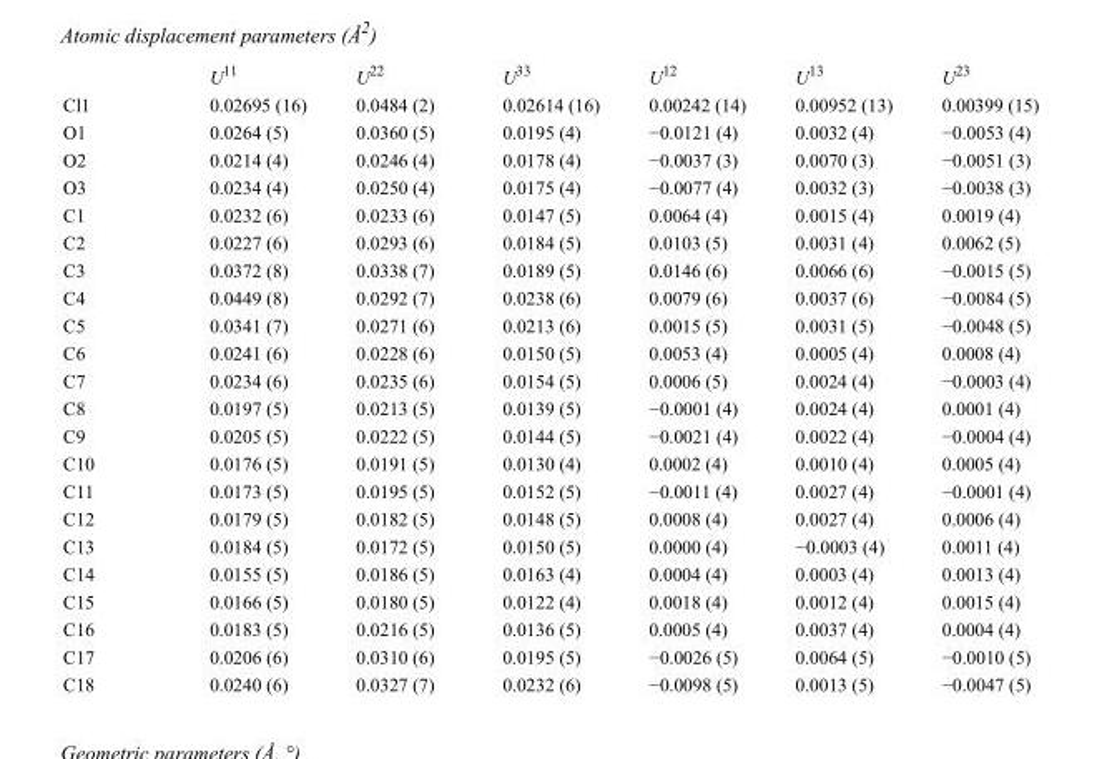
<table><thead><tr><td></td><td>U<sup>11</sup></td><td>U<sup>22</sup></td><td>U<sup>33</sup></td><td>U<sup>12</sup></td><td>U<sup>13</sup></td><td>U<sup>23</sup></td></tr></thead><tbody><tr><td>Cl1</td><td>0.02695 (16)</td><td>0.0484 (2)</td><td>0.02614 (16)</td><td>0.00242 (14)</td><td>0.00952 (13)</td><td>0.00399 (15)</td></tr><tr><td>O1</td><td>0.0264 (5)</td><td>0.0360 (5)</td><td>0.0195 (4)</td><td>−0.0121 (4)</td><td>0.0032 (4)</td><td>−0.0053 (4)</td></tr><tr><td>O2</td><td>0.0214 (4)</td><td>0.0246 (4)</td><td>0.0178 (4)</td><td>−0.0037 (3)</td><td>0.0070 (3)</td><td>−0.0051 (3)</td></tr><tr><td>O3</td><td>0.0234 (4)</td><td>0.0250 (4)</td><td>0.0175 (4)</td><td>−0.0077 (4)</td><td>0.0032 (3)</td><td>−0.0038 (3)</td></tr><tr><td>C1</td><td>0.0232 (6)</td><td>0.0233 (6)</td><td>0.0147 (5)</td><td>0.0064 (4)</td><td>0.0015 (4)</td><td>0.0019 (4)</td></tr><tr><td>C2</td><td>0.0227 (6)</td><td>0.0293 (6)</td><td>0.0184 (5)</td><td>0.0103 (5)</td><td>0.0031 (4)</td><td>0.0062 (5)</td></tr><tr><td>C3</td><td>0.0372 (8)</td><td>0.0338 (7)</td><td>0.0189 (5)</td><td>0.0146 (6)</td><td>0.0066 (6)</td><td>−0.0015 (5)</td></tr><tr><td>C4</td><td>0.0449 (8)</td><td>0.0292 (7)</td><td>0.0238 (6)</td><td>0.0079 (6)</td><td>0.0037 (6)</td><td>−0.0084 (5)</td></tr><tr><td>C5</td><td>0.0341 (7)</td><td>0.0271 (6)</td><td>0.0213 (6)</td><td>0.0015 (5)</td><td>0.0031 (5)</td><td>−0.0048 (5)</td></tr><tr><td>C6</td><td>0.0241 (6)</td><td>0.0228 (6)</td><td>0.0150 (5)</td><td>0.0053 (4)</td><td>0.0005 (4)</td><td>0.0008 (4)</td></tr><tr><td>C7</td><td>0.0234 (6)</td><td>0.0235 (6)</td><td>0.0154 (5)</td><td>0.0006 (5)</td><td>0.0024 (4)</td><td>−0.0003 (4)</td></tr><tr><td>C8</td><td>0.0197 (5)</td><td>0.0213 (5)</td><td>0.0139 (5)</td><td>−0.0001 (4)</td><td>0.0024 (4)</td><td>0.0001 (4)</td></tr><tr><td>C9</td><td>0.0205 (5)</td><td>0.0222 (5)</td><td>0.0144 (5)</td><td>−0.0021 (4)</td><td>0.0022 (4)</td><td>−0.0004 (4)</td></tr><tr><td>C10</td><td>0.0176 (5)</td><td>0.0191 (5)</td><td>0.0130 (4)</td><td>0.0002 (4)</td><td>0.0010 (4)</td><td>0.0005 (4)</td></tr><tr><td>C11</td><td>0.0173 (5)</td><td>0.0195 (5)</td><td>0.0152 (5)</td><td>−0.0011 (4)</td><td>0.0027 (4)</td><td>−0.0001 (4)</td></tr><tr><td>C12</td><td>0.0179 (5)</td><td>0.0182 (5)</td><td>0.0148 (5)</td><td>0.0008 (4)</td><td>0.0027 (4)</td><td>0.0006 (4)</td></tr><tr><td>C13</td><td>0.0184 (5)</td><td>0.0172 (5)</td><td>0.0150 (5)</td><td>0.0000 (4)</td><td>−0.0003 (4)</td><td>0.0011 (4)</td></tr><tr><td>C14</td><td>0.0155 (5)</td><td>0.0186 (5)</td><td>0.0163 (4)</td><td>0.0004 (4)</td><td>0.0003 (4)</td><td>0.0013 (4)</td></tr><tr><td>C15</td><td>0.0166 (5)</td><td>0.0180 (5)</td><td>0.0122 (4)</td><td>0.0018 (4)</td><td>0.0012 (4)</td><td>0.0015 (4)</td></tr><tr><td>C16</td><td>0.0183 (5)</td><td>0.0216 (5)</td><td>0.0136 (5)</td><td>0.0005 (4)</td><td>0.0037 (4)</td><td>0.0004 (4)</td></tr><tr><td>C17</td><td>0.0206 (6)</td><td>0.0310 (6)</td><td>0.0195 (5)</td><td>−0.0026 (5)</td><td>0.0064 (5)</td><td>−0.0010 (5)</td></tr><tr><td>C18</td><td>0.0240 (6)</td><td>0.0327 (7)</td><td>0.0232 (6)</td><td>−0.0098 (5)</td><td>0.0013 (5)</td><td>−0.0047 (5)</td></tr></tbody></table>